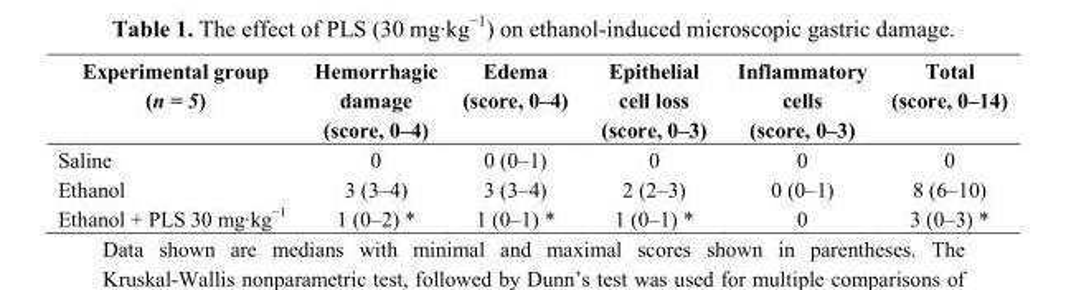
<table><thead><tr><td>Experimental group (n = 5)</td><td>Hemorrhagic damage (score, 0–4)</td><td>Edema (score, 0–4)</td><td>Epithelial cell loss (score, 0–3)</td><td>Inflammatory cells (score, 0–3)</td><td>Total (score, 0–14)</td></tr></thead><tbody><tr><td>Saline</td><td>0</td><td>0 (0–1)</td><td>0</td><td>0</td><td>0</td></tr><tr><td>Ethanol</td><td>3 (3–4)</td><td>3 (3–4)</td><td>2 (2–3)</td><td>0 (0–1)</td><td>8 (6–10)</td></tr><tr><td>Ethanol + PLS 30 mg·kg<sup>−1</sup></td><td>1 (0–2) *</td><td>1 (0–1) *</td><td>1 (0–1) *</td><td>0</td><td>3 (0–3) *</td></tr></tbody></table>